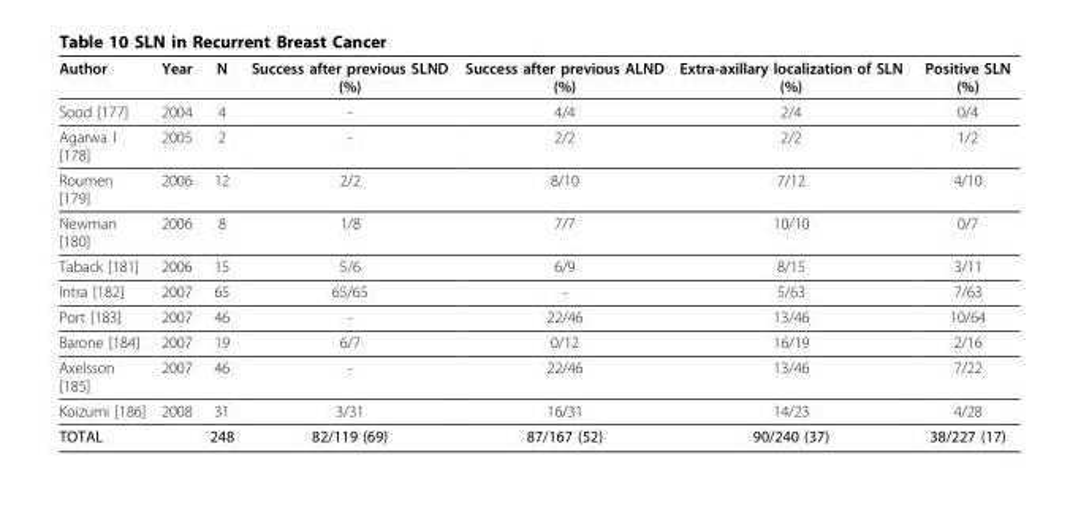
<table><thead><tr><td>Author</td><td>Year</td><td>N</td><td>Success after previous SLND (%)</td><td>Success after previous ALND (%)</td><td>Extra-axillary localization of SLN (%)</td><td>Positive SLN (%)</td></tr></thead><tbody><tr><td>Sood [177]</td><td>2004</td><td>4</td><td>-</td><td>4/4</td><td>2/4</td><td>0/4</td></tr><tr><td>Agarwa l [178]</td><td>2005</td><td>2</td><td>-</td><td>2/2</td><td>2/2</td><td>1/2</td></tr><tr><td>Roumen [179]</td><td>2006</td><td>12</td><td>2/2</td><td>8/10</td><td>7/12</td><td>4/10</td></tr><tr><td>Newman [180]</td><td>2006</td><td>8</td><td>1/8</td><td>7/7</td><td>10/10</td><td>0/7</td></tr><tr><td>Taback [181]</td><td>2006</td><td>15</td><td>5/6</td><td>6/9</td><td>8/15</td><td>3/11</td></tr><tr><td>Intra [182]</td><td>2007</td><td>65</td><td>65/65</td><td>-</td><td>5/63</td><td>7/63</td></tr><tr><td>Port [183]</td><td>2007</td><td>46</td><td>-</td><td>22/46</td><td>13/46</td><td>10/64</td></tr><tr><td>Barone [184]</td><td>2007</td><td>19</td><td>6/7</td><td>0/12</td><td>16/19</td><td>2/16</td></tr><tr><td>Axelsson [185]</td><td>2007</td><td>46</td><td>-</td><td>22/46</td><td>13/46</td><td>7/22</td></tr><tr><td>Koizumi [186]</td><td>2008</td><td>31</td><td>3/31</td><td>16/31</td><td>14/23</td><td>4/28</td></tr><tr><td>TOTAL</td><td></td><td>248</td><td>82/119 (69)</td><td>87/167 (52)</td><td>90/240 (37)</td><td>38/227 (17)</td></tr></tbody></table>